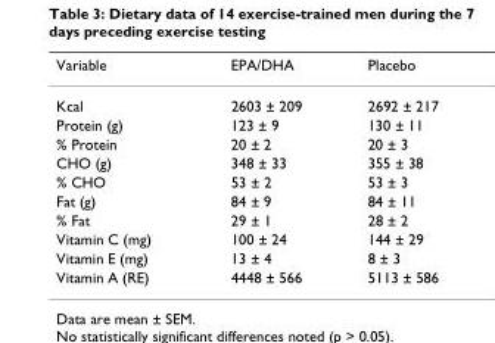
<table><thead><tr><td>Variable</td><td>EPA/DHA</td><td>Placebo</td></tr></thead><tbody><tr><td>Kcal</td><td>2603 ± 209</td><td>2692 ± 217</td></tr><tr><td>Protein (g)</td><td>123 ± 9</td><td>130 ± 11</td></tr><tr><td>% Protein</td><td>20 ± 2</td><td>20 ± 3</td></tr><tr><td>CHO (g)</td><td>348 ± 33</td><td>355 ± 38</td></tr><tr><td>% CHO</td><td>53 ± 2</td><td>53 ± 3</td></tr><tr><td>Fat (g)</td><td>84 ± 9</td><td>84 ± 11</td></tr><tr><td>% Fat</td><td>29 ± 1</td><td>28 ± 2</td></tr><tr><td>Vitamin C (mg)</td><td>100 ± 24</td><td>144 ± 29</td></tr><tr><td>Vitamin E (mg)</td><td>13 ± 4</td><td>8 ± 3</td></tr><tr><td>Vitamin A (RE)</td><td>4448 ± 566</td><td>5113 ± 586</td></tr></tbody></table>